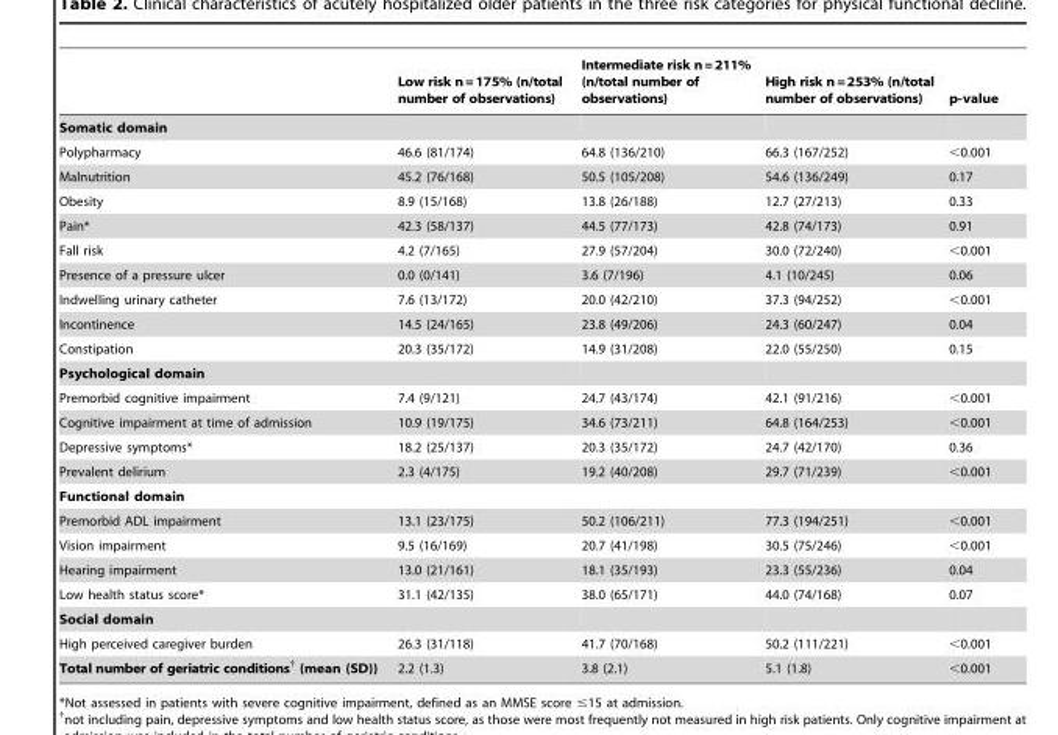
<table><thead><tr><td></td><td>Low risk n=175% (n/total number of observations)</td><td>Intermediate risk n=211% (n/total number of observations)</td><td>High risk n=253% (n/total number of observations)</td><td>p-value</td></tr></thead><tbody><tr><td colspan="5">Somatic domain</td></tr><tr><td>Polypharmacy</td><td>46.6 (81/174)</td><td>64.8 (136/210)</td><td>66.3 (167/252)</td><td>&lt;0.001</td></tr><tr><td>Malnutrition</td><td>45.2 (76/168)</td><td>50.5 (105/208)</td><td>54.6 (136/249)</td><td>0.17</td></tr><tr><td>Obesity</td><td>8.9 (15/168)</td><td>13.8 (26/188)</td><td>12.7 (27/213)</td><td>0.33</td></tr><tr><td>Pain*</td><td>42.3 (58/137)</td><td>44.5 (77/173)</td><td>42.8 (74/173)</td><td>0.91</td></tr><tr><td>Fall risk</td><td>4.2 (7/165)</td><td>27.9 (57/204)</td><td>30.0 (72/240)</td><td>&lt;0.001</td></tr><tr><td>Presence of a pressure ulcer</td><td>0.0 (0/141)</td><td>3.6 (7/196)</td><td>4.1 (10/245)</td><td>0.06</td></tr><tr><td>Indwelling urinary catheter</td><td>7.6 (13/172)</td><td>20.0 (42/210)</td><td>37.3 (94/252)</td><td>&lt;0.001</td></tr><tr><td>Incontinence</td><td>14.5 (24/165)</td><td>23.8 (49/206)</td><td>24.3 (60/247)</td><td>0.04</td></tr><tr><td>Constipation</td><td>20.3 (35/172)</td><td>14.9 (31/208)</td><td>22.0 (55/250)</td><td>0.15</td></tr><tr><td colspan="5">Psychological domain</td></tr><tr><td>Premorbid cognitive impairment</td><td>7.4 (9/121)</td><td>24.7 (43/174)</td><td>42.1 (91/216)</td><td>&lt;0.001</td></tr><tr><td>Cognitive impairment at time of admission</td><td>10.9 (19/175)</td><td>34.6 (73/211)</td><td>64.8 (164/253)</td><td>&lt;0.001</td></tr><tr><td>Depressive symptoms*</td><td>18.2 (25/137)</td><td>20.3 (35/172)</td><td>24.7 (42/170)</td><td>0.36</td></tr><tr><td>Prevalent delirium</td><td>2.3 (4/175)</td><td>19.2 (40/208)</td><td>29.7 (71/239)</td><td>&lt;0.001</td></tr><tr><td colspan="5">Functional domain</td></tr><tr><td>Premorbid ADL impairment</td><td>13.1 (23/175)</td><td>50.2 (106/211)</td><td>77.3 (194/251)</td><td>&lt;0.001</td></tr><tr><td>Vision impairment</td><td>9.5 (16/169)</td><td>20.7 (41/198)</td><td>30.5 (75/246)</td><td>&lt;0.001</td></tr><tr><td>Hearing impairment</td><td>13.0 (21/161)</td><td>18.1 (35/193)</td><td>23.3 (55/236)</td><td>0.04</td></tr><tr><td>Low health status score*</td><td>31.1 (42/135)</td><td>38.0 (65/171)</td><td>44.0 (74/168)</td><td>0.07</td></tr><tr><td colspan="5">Social domain</td></tr><tr><td>High perceived caregiver burden</td><td>26.3 (31/118)</td><td>41.7 (70/168)</td><td>50.2 (111/221)</td><td>&lt;0.001</td></tr><tr><td>Total number of geriatric conditions† (mean (SD))</td><td>2.2 (1.3)</td><td>3.8 (2.1)</td><td>5.1 (1.8)</td><td>&lt;0.001</td></tr></tbody></table>